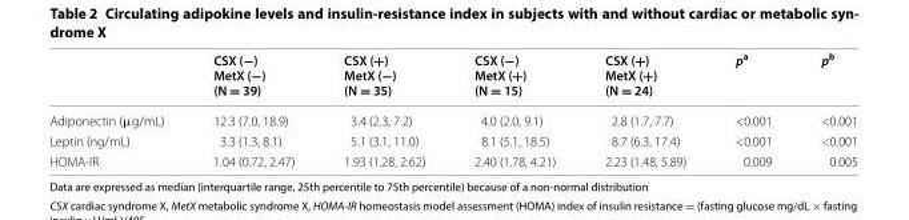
<table><thead><tr><td></td><td>CSX (−) MetX (−) (N = 39)</td><td>CSX (+) MetX (−) (N = 35)</td><td>CSX (−) MetX (+) (N = 15)</td><td>CSX (+) MetX (+) (N = 24)</td><td>p<sup>a</sup></td><td>p<sup>b</sup></td></tr></thead><tbody><tr><td>Adiponectin (μg/mL)</td><td>12.3 (7.0, 18.9)</td><td>3.4 (2.3, 7.2)</td><td>4.0 (2.0, 9.1)</td><td>2.8 (1.7, 7.7)</td><td>&lt;0.001</td><td>&lt;0.001</td></tr><tr><td>Leptin (ng/mL)</td><td>3.3 (1.3, 8.1)</td><td>5.1 (3.1, 11.0)</td><td>8.1 (5.1, 18.5)</td><td>8.7 (6.3, 17.4)</td><td>&lt;0.001</td><td>&lt;0.001</td></tr><tr><td>HOMA‑IR</td><td>1.04 (0.72, 2.47)</td><td>1.93 (1.28, 2.62)</td><td>2.40 (1.78, 4.21)</td><td>2.23 (1.48, 5.89)</td><td>0.009</td><td>0.005</td></tr></tbody></table>